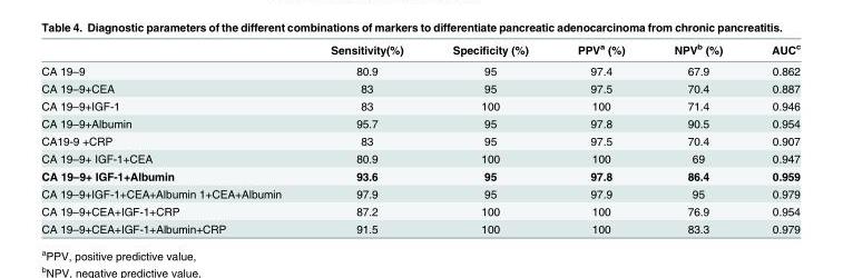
<table><thead><tr><td></td><td>Sensitivity(%)</td><td>Specificity (%)</td><td>PPV<sup>a</sup> (%)</td><td>NPV<sup>b</sup> (%)</td><td>AUC<sup>c</sup></td></tr></thead><tbody><tr><td>CA 19–9</td><td>80.9</td><td>95</td><td>97.4</td><td>67.9</td><td>0.862</td></tr><tr><td>CA 19–9+CEA</td><td>83</td><td>95</td><td>97.5</td><td>70.4</td><td>0.887</td></tr><tr><td>CA 19–9+IGF-1</td><td>83</td><td>100</td><td>100</td><td>71.4</td><td>0.946</td></tr><tr><td>CA 19–9+Albumin</td><td>95.7</td><td>95</td><td>97.8</td><td>90.5</td><td>0.954</td></tr><tr><td>CA19-9 +CRP</td><td>83</td><td>95</td><td>97.5</td><td>70.4</td><td>0.907</td></tr><tr><td>CA 19–9+ IGF-1+CEA</td><td>80.9</td><td>100</td><td>100</td><td>69</td><td>0.947</td></tr><tr><td>CA 19–9+ IGF-1+Albumin</td><td>93.6</td><td>95</td><td>97.8</td><td>86.4</td><td>0.959</td></tr><tr><td>CA 19–9+IGF-1+CEA+Albumin 1+CEA+Albumin</td><td>97.9</td><td>95</td><td>97.9</td><td>95</td><td>0.979</td></tr><tr><td>CA 19–9+CEA+IGF-1+CRP</td><td>87.2</td><td>100</td><td>100</td><td>76.9</td><td>0.954</td></tr><tr><td>CA 19–9+CEA+IGF-1+Albumin+CRP</td><td>91.5</td><td>100</td><td>100</td><td>83.3</td><td>0.979</td></tr></tbody></table>